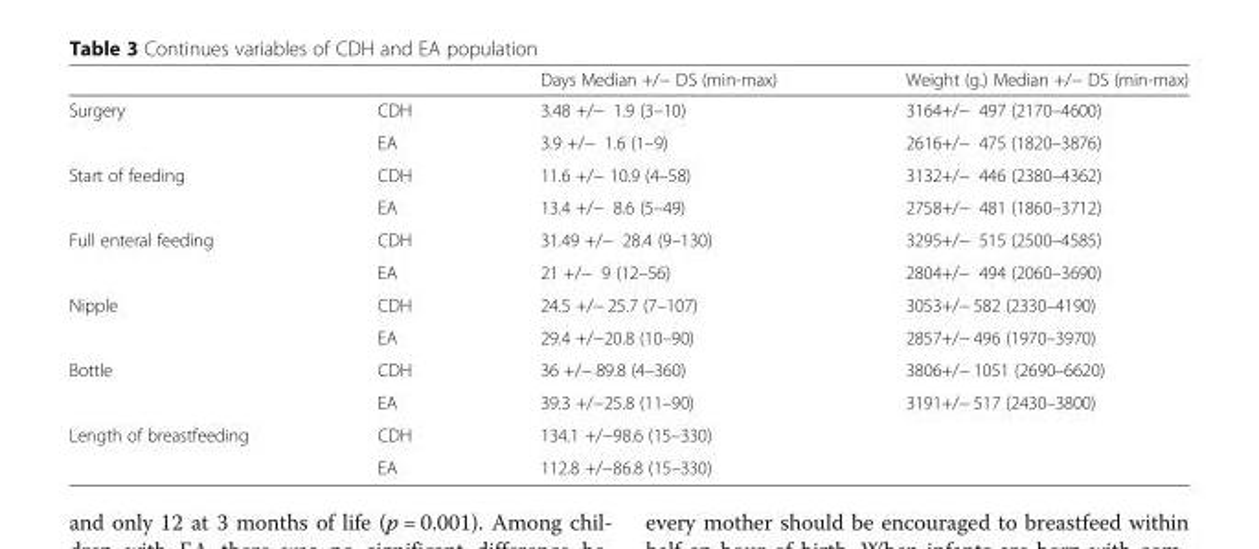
<table><thead><tr><td></td><td></td><td>Days Median +/− DS (min-max)</td><td>Weight (g.) Median +/− DS (min-max)</td></tr></thead><tbody><tr><td rowspan="2">Surgery</td><td>CDH</td><td>3.48 +/− 1.9 (3–10)</td><td>3164+/− 497 (2170–4600)</td></tr><tr><td>EA</td><td>3.9 +/− 1.6 (1–9)</td><td>2616+/− 475 (1820–3876)</td></tr><tr><td rowspan="2">Start of feeding</td><td>CDH</td><td>11.6 +/− 10.9 (4–58)</td><td>3132+/− 446 (2380–4362)</td></tr><tr><td>EA</td><td>13.4 +/− 8.6 (5–49)</td><td>2758+/− 481 (1860–3712)</td></tr><tr><td rowspan="2">Full enteral feeding</td><td>CDH</td><td>31.49 +/− 28.4 (9–130)</td><td>3295+/− 515 (2500–4585)</td></tr><tr><td>EA</td><td>21 +/− 9 (12–56)</td><td>2804+/− 494 (2060–3690)</td></tr><tr><td rowspan="2">Nipple</td><td>CDH</td><td>24.5 +/− 25.7 (7–107)</td><td>3053+/− 582 (2330–4190)</td></tr><tr><td>EA</td><td>29.4 +/−20.8 (10–90)</td><td>2857+/− 496 (1970–3970)</td></tr><tr><td rowspan="2">Bottle</td><td>CDH</td><td>36 +/− 89.8 (4–360)</td><td>3806+/− 1051 (2690–6620)</td></tr><tr><td>EA</td><td>39.3 +/−25.8 (11–90)</td><td>3191+/− 517 (2430–3800)</td></tr><tr><td rowspan="2">Length of breastfeeding</td><td>CDH</td><td>134.1 +/−98.6 (15–330)</td><td></td></tr><tr><td>EA</td><td>112.8 +/−86.8 (15–330)</td><td></td></tr></tbody></table>